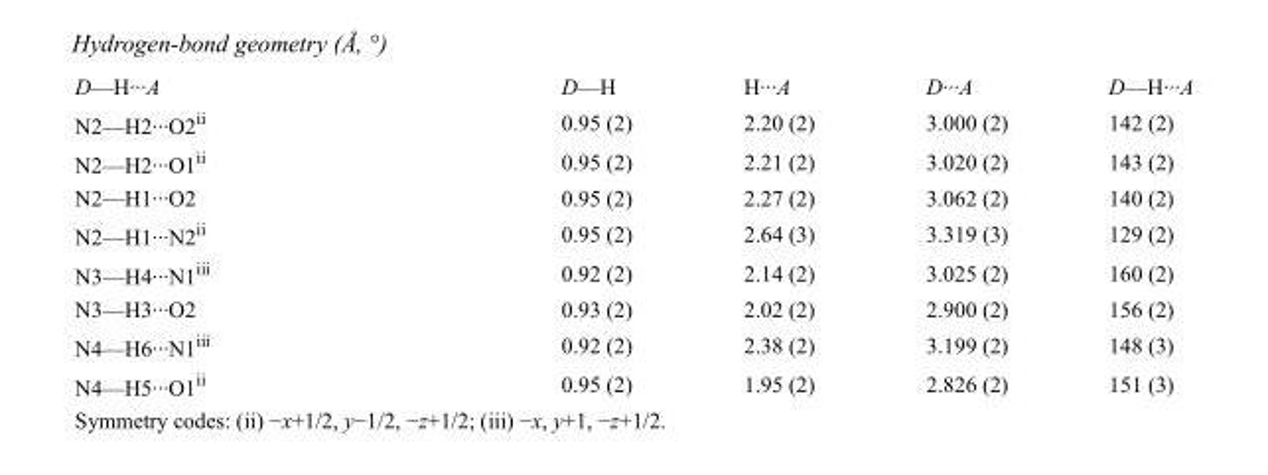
<table><tbody><tr><td>D—H···A</td><td>D—H</td><td>H···A</td><td>D···A</td><td>D—H···A</td></tr><tr><td>N2—H2···O2<sup>ii</sup></td><td>0.95 (2)</td><td>2.20 (2)</td><td>3.000 (2)</td><td>142 (2)</td></tr><tr><td>N2—H2···O1<sup>ii</sup></td><td>0.95 (2)</td><td>2.21 (2)</td><td>3.020 (2)</td><td>143 (2)</td></tr><tr><td>N2—H1···O2</td><td>0.95 (2)</td><td>2.27 (2)</td><td>3.062 (2)</td><td>140 (2)</td></tr><tr><td>N2—H1···N2<sup>ii</sup></td><td>0.95 (2)</td><td>2.64 (3)</td><td>3.319 (3)</td><td>129 (2)</td></tr><tr><td>N3—H4···N1<sup>iii</sup></td><td>0.92 (2)</td><td>2.14 (2)</td><td>3.025 (2)</td><td>160 (2)</td></tr><tr><td>N3—H3···O2</td><td>0.93 (2)</td><td>2.02 (2)</td><td>2.900 (2)</td><td>156 (2)</td></tr><tr><td>N4—H6···N1<sup>iii</sup></td><td>0.92 (2)</td><td>2.38 (2)</td><td>3.199 (2)</td><td>148 (3)</td></tr><tr><td>N4—H5···O1<sup>ii</sup></td><td>0.95 (2)</td><td>1.95 (2)</td><td>2.826 (2)</td><td>151 (3)</td></tr></tbody></table>